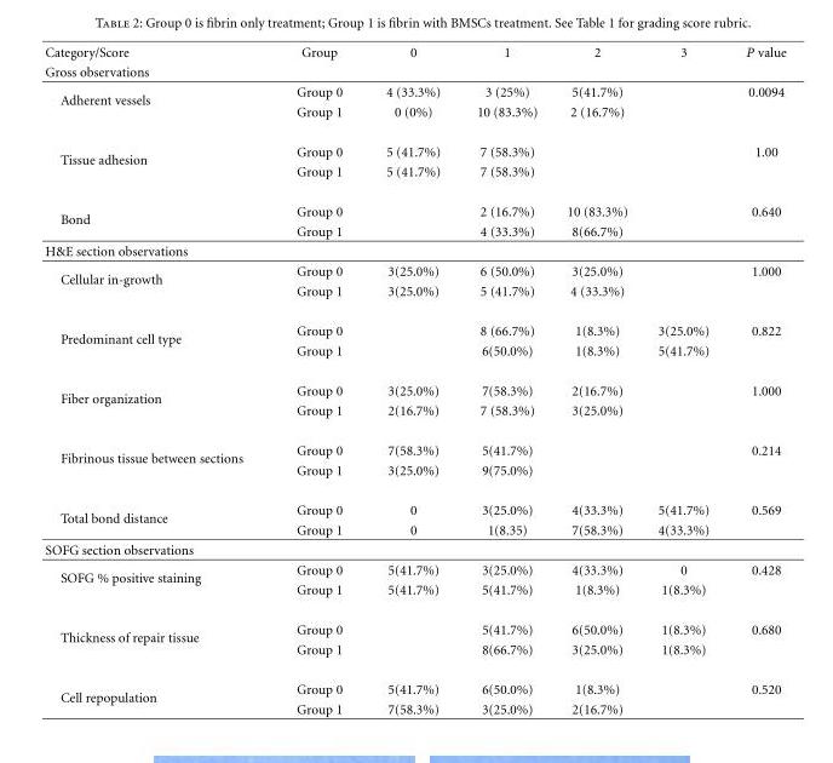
<table><thead><tr><td rowspan="2">Category/Score Gross observations</td><td rowspan="2">Group</td><td rowspan="2">0</td><td rowspan="2">1</td><td rowspan="2">2</td><td rowspan="2">3</td><td rowspan="2">P value</td></tr><tr></tr></thead><tbody><tr><td rowspan="2">Adherent vessels</td><td>Group 0</td><td>4 (33.3%)</td><td>3 (25%)</td><td>5(41.7%)</td><td></td><td>0.0094</td></tr><tr><td>Group 1</td><td>0 (0%)</td><td>10 (83.3%)</td><td>2 (16.7%)</td><td></td><td></td></tr><tr><td rowspan="2">Tissue adhesion</td><td>Group 0</td><td>5 (41.7%)</td><td>7 (58.3%)</td><td></td><td></td><td>1.00</td></tr><tr><td>Group 1</td><td>5 (41.7%)</td><td>7 (58.3%)</td><td></td><td></td><td></td></tr><tr><td rowspan="2">Bond</td><td>Group 0</td><td></td><td>2 (16.7%)</td><td>10 (83.3%)</td><td></td><td>0.640</td></tr><tr><td>Group 1</td><td></td><td>4 (33.3%)</td><td>8(66.7%)</td><td></td><td></td></tr><tr><td colspan="7">H&amp;E section observations</td></tr><tr><td rowspan="2">Cellular in-growth</td><td>Group 0</td><td>3(25.0%)</td><td>6 (50.0%)</td><td>3(25.0%)</td><td></td><td>1.000</td></tr><tr><td>Group 1</td><td>3(25.0%)</td><td>5 (41.7%)</td><td>4 (33.3%)</td><td></td><td></td></tr><tr><td rowspan="2">Predominant cell type</td><td>Group 0</td><td></td><td>8 (66.7%)</td><td>1(8.3%)</td><td>3(25.0%)</td><td>0.822</td></tr><tr><td>Group 1</td><td></td><td>6(50.0%)</td><td>1(8.3%)</td><td>5(41.7%)</td><td></td></tr><tr><td rowspan="2">Fiber organization</td><td>Group 0</td><td>3(25.0%)</td><td>7(58.3%)</td><td>2(16.7%)</td><td></td><td>1.000</td></tr><tr><td>Group 1</td><td>2(16.7%)</td><td>7 (58.3%)</td><td>3(25.0%)</td><td></td><td></td></tr><tr><td rowspan="2">Fibrinous tissue between sections</td><td>Group 0</td><td>7(58.3%)</td><td>5(41.7%)</td><td></td><td></td><td>0.214</td></tr><tr><td>Group 1</td><td>3(25.0%)</td><td>9(75.0%)</td><td></td><td></td><td></td></tr><tr><td rowspan="2">Total bond distance</td><td>Group 0</td><td>0</td><td>3(25.0%)</td><td>4(33.3%)</td><td>5(41.7%)</td><td>0.569</td></tr><tr><td>Group 1</td><td>0</td><td>1(8.35)</td><td>7(58.3%)</td><td>4(33.3%)</td><td></td></tr><tr><td colspan="7">SOFG section observations</td></tr><tr><td rowspan="2">SOFG % positive staining</td><td>Group 0</td><td>5(41.7%)</td><td>3(25.0%)</td><td>4(33.3%)</td><td>0</td><td>0.428</td></tr><tr><td>Group 1</td><td>5(41.7%)</td><td>5(41.7%)</td><td>1(8.3%)</td><td>1(8.3%)</td><td></td></tr><tr><td rowspan="2">Thickness of repair tissue</td><td>Group 0</td><td></td><td>5(41.7%)</td><td>6(50.0%)</td><td>1(8.3%)</td><td>0.680</td></tr><tr><td>Group 1</td><td></td><td>8(66.7%)</td><td>3(25.0%)</td><td>1(8.3%)</td><td></td></tr><tr><td rowspan="2">Cell repopulation</td><td>Group 0</td><td>5(41.7%)</td><td>6(50.0%)</td><td>1(8.3%)</td><td></td><td>0.520</td></tr><tr><td>Group 1</td><td>7(58.3%)</td><td>3(25.0%)</td><td>2(16.7%)</td><td></td><td></td></tr></tbody></table>